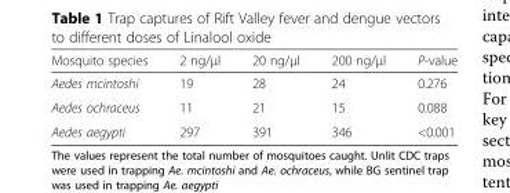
<table><thead><tr><td>Mosquito species</td><td>2 ng/μl</td><td>20 ng/μl</td><td>200 ng/μl</td><td>P-value</td></tr></thead><tbody><tr><td>Aedes mcintoshi</td><td>19</td><td>28</td><td>24</td><td>0.276</td></tr><tr><td>Aedes ochraceus</td><td>11</td><td>21</td><td>15</td><td>0.088</td></tr><tr><td>Aedes aegypti</td><td>297</td><td>391</td><td>346</td><td>&lt;0.001</td></tr></tbody></table>